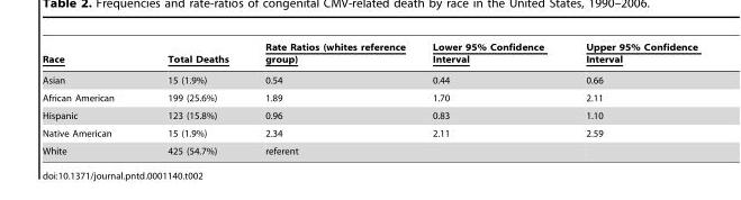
<table><thead><tr><td>Race</td><td>Total Deaths</td><td>Rate Ratios (whites reference group)</td><td>Lower 95% Confidence Interval</td><td>Upper 95% Confidence Interval</td></tr></thead><tbody><tr><td>Asian</td><td>15 (1.9%)</td><td>0.54</td><td>0.44</td><td>0.66</td></tr><tr><td>African American</td><td>199 (25.6%)</td><td>1.89</td><td>1.70</td><td>2.11</td></tr><tr><td>Hispanic</td><td>123 (15.8%)</td><td>0.96</td><td>0.83</td><td>1.10</td></tr><tr><td>Native American</td><td>15 (1.9%)</td><td>2.34</td><td>2.11</td><td>2.59</td></tr><tr><td>White</td><td>425 (54.7%)</td><td>referent</td><td></td><td></td></tr></tbody></table>